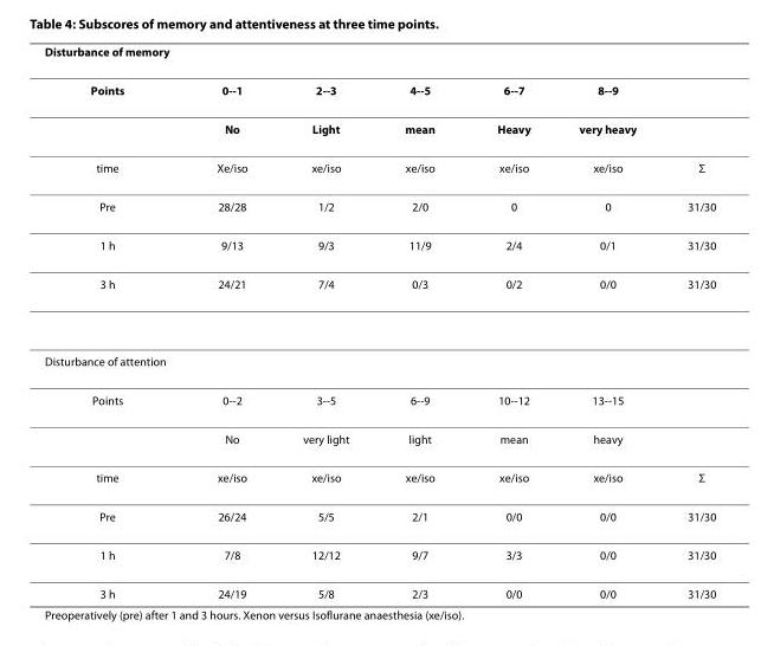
<table><thead><tr><td colspan="7">Disturbance of memory</td></tr><tr><td>Points</td><td>0--1</td><td>2--3</td><td>4--5</td><td>6--7</td><td>8--9</td><td></td></tr></thead><tbody><tr><td></td><td>No</td><td>Light</td><td>mean</td><td>Heavy</td><td>very heavy</td><td></td></tr><tr><td>time</td><td>Xe/iso</td><td>xe/iso</td><td>xe/iso</td><td>xe/iso</td><td>xe/iso</td><td>Σ</td></tr><tr><td>Pre</td><td>28/28</td><td>1/2</td><td>2/0</td><td>0</td><td>0</td><td>31/30</td></tr><tr><td>1 h</td><td>9/13</td><td>9/3</td><td>11/9</td><td>2/4</td><td>0/1</td><td>31/30</td></tr><tr><td>3 h</td><td>24/21</td><td>7/4</td><td>0/3</td><td>0/2</td><td>0/0</td><td>31/30</td></tr><tr><td colspan="7">Disturbance of attention</td></tr><tr><td rowspan="2">Points</td><td>0--2</td><td>3--5</td><td>6--9</td><td>10--12</td><td>13--15</td><td></td></tr><tr><td>No</td><td>very light</td><td>light</td><td>mean</td><td>heavy</td><td></td></tr><tr><td>time</td><td>xe/iso</td><td>xe/iso</td><td>xe/iso</td><td>xe/iso</td><td>xe/iso</td><td>Σ</td></tr><tr><td>Pre</td><td>26/24</td><td>5/5</td><td>2/1</td><td>0/0</td><td>0/0</td><td>31/30</td></tr><tr><td>1 h</td><td>7/8</td><td>12/12</td><td>9/7</td><td>3/3</td><td>0/0</td><td>31/30</td></tr><tr><td>3 h</td><td>24/19</td><td>5/8</td><td>2/3</td><td>0/0</td><td>0/0</td><td>31/30</td></tr></tbody></table>